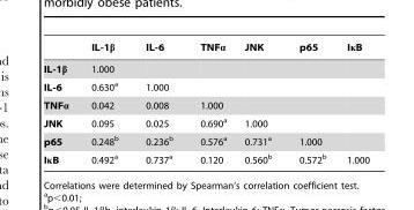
<table><thead><tr><td></td><td>IL-1β</td><td>IL-6</td><td>TNFα</td><td>JNK</td><td>p65</td><td>IκB</td></tr></thead><tbody><tr><td>IL-1β</td><td>1.000</td><td></td><td></td><td></td><td></td><td></td></tr><tr><td>IL-6</td><td>0.630<sup>a</sup></td><td>1.000</td><td></td><td></td><td></td><td></td></tr><tr><td>TNFα</td><td>0.042</td><td>0.008</td><td>1.000</td><td></td><td></td><td></td></tr><tr><td>JNK</td><td>0.095</td><td>0.025</td><td>0.690<sup>a</sup></td><td>1.000</td><td></td><td></td></tr><tr><td>p65</td><td>0.248<sup>b</sup></td><td>0.236<sup>b</sup></td><td>0.576<sup>a</sup></td><td>0.731<sup>a</sup></td><td>1.000</td><td></td></tr><tr><td>IκB</td><td>0.492<sup>a</sup></td><td>0.737<sup>a</sup></td><td>0.120</td><td>0.560<sup>b</sup></td><td>0.572<sup>b</sup></td><td>1.000</td></tr></tbody></table>